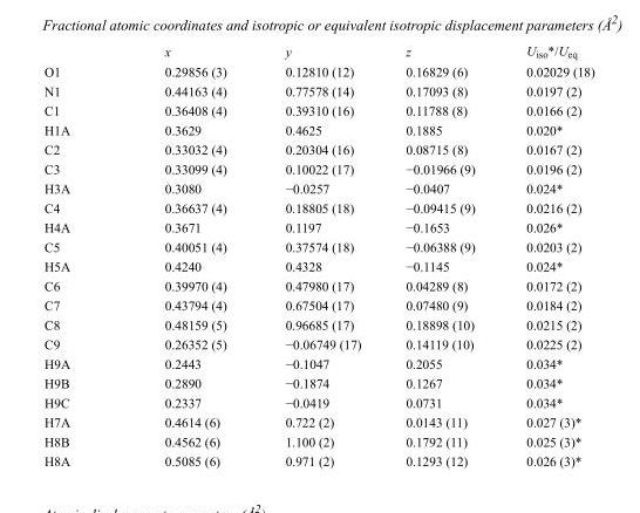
<table><thead><tr><td></td><td>x</td><td>y</td><td>z</td><td>U<sub>iso</sub>*/U<sub>eq</sub></td></tr></thead><tbody><tr><td>O1</td><td>0.29856 (3)</td><td>0.12810 (12)</td><td>0.16829 (6)</td><td>0.02029 (18)</td></tr><tr><td>N1</td><td>0.44163 (4)</td><td>0.77578 (14)</td><td>0.17093 (8)</td><td>0.0197 (2)</td></tr><tr><td>C1</td><td>0.36408 (4)</td><td>0.39310 (16)</td><td>0.11788 (8)</td><td>0.0166 (2)</td></tr><tr><td>H1A</td><td>0.3629</td><td>0.4625</td><td>0.1885</td><td>0.020*</td></tr><tr><td>C2</td><td>0.33032 (4)</td><td>0.20304 (16)</td><td>0.08715 (8)</td><td>0.0167 (2)</td></tr><tr><td>C3</td><td>0.33099 (4)</td><td>0.10022 (17)</td><td>−0.01966 (9)</td><td>0.0196 (2)</td></tr><tr><td>H3A</td><td>0.3080</td><td>−0.0257</td><td>−0.0407</td><td>0.024*</td></tr><tr><td>C4</td><td>0.36637 (4)</td><td>0.18805 (18)</td><td>−0.09415 (9)</td><td>0.0216 (2)</td></tr><tr><td>H4A</td><td>0.3671</td><td>0.1197</td><td>−0.1653</td><td>0.026*</td></tr><tr><td>C5</td><td>0.40051 (4)</td><td>0.37574 (18)</td><td>−0.06388 (9)</td><td>0.0203 (2)</td></tr><tr><td>H5A</td><td>0.4240</td><td>0.4328</td><td>−0.1145</td><td>0.024*</td></tr><tr><td>C6</td><td>0.39970 (4)</td><td>0.47980 (17)</td><td>0.04289 (8)</td><td>0.0172 (2)</td></tr><tr><td>C7</td><td>0.43794 (4)</td><td>0.67504 (17)</td><td>0.07480 (9)</td><td>0.0184 (2)</td></tr><tr><td>C8</td><td>0.48159 (5)</td><td>0.96685 (17)</td><td>0.18898 (10)</td><td>0.0215 (2)</td></tr><tr><td>C9</td><td>0.26352 (5)</td><td>−0.06749 (17)</td><td>0.14119 (10)</td><td>0.0225 (2)</td></tr><tr><td>H9A</td><td>0.2443</td><td>−0.1047</td><td>0.2055</td><td>0.034*</td></tr><tr><td>H9B</td><td>0.2890</td><td>−0.1874</td><td>0.1267</td><td>0.034*</td></tr><tr><td>H9C</td><td>0.2337</td><td>−0.0419</td><td>0.0731</td><td>0.034*</td></tr><tr><td>H7A</td><td>0.4614 (6)</td><td>0.722 (2)</td><td>0.0143 (11)</td><td>0.027 (3)*</td></tr><tr><td>H8B</td><td>0.4562 (6)</td><td>1.100 (2)</td><td>0.1792 (11)</td><td>0.025 (3)*</td></tr><tr><td>H8A</td><td>0.5085 (6)</td><td>0.971 (2)</td><td>0.1293 (12)</td><td>0.026 (3)*</td></tr></tbody></table>